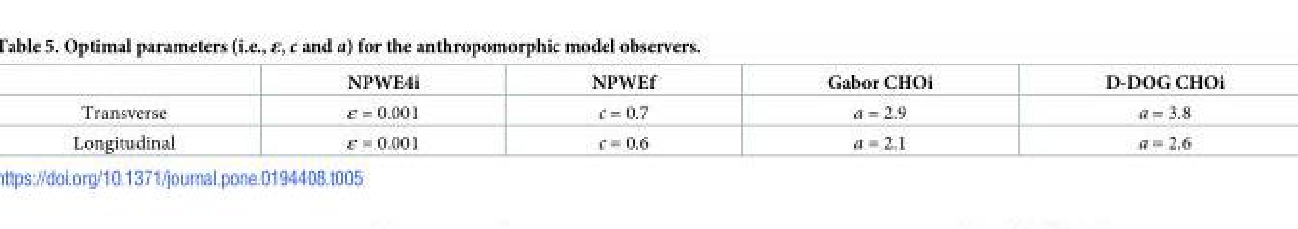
<table><thead><tr><td></td><td>NPWE4i</td><td>NPWEf</td><td>Gabor CHOi</td><td>D-DOG CHOi</td></tr></thead><tbody><tr><td>Transverse</td><td>ε = 0.001</td><td>c = 0.7</td><td>a = 2.9</td><td>a = 3.8</td></tr><tr><td>Longitudinal</td><td>ε = 0.001</td><td>c = 0.6</td><td>a = 2.1</td><td>a = 2.6</td></tr></tbody></table>